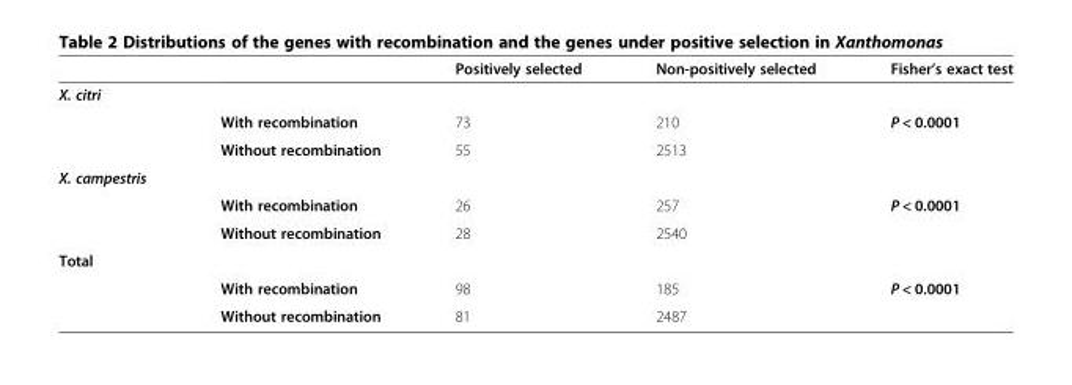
<table><thead><tr><td></td><td></td><td>Positively selected</td><td>Non-positively selected</td><td>Fisher’s exact test</td></tr></thead><tbody><tr><td colspan="5">X. citri</td></tr><tr><td></td><td>With recombination</td><td>73</td><td>210</td><td>P &lt; 0.0001</td></tr><tr><td></td><td>Without recombination</td><td>55</td><td>2513</td><td></td></tr><tr><td colspan="5">X. campestris</td></tr><tr><td></td><td>With recombination</td><td>26</td><td>257</td><td>P &lt; 0.0001</td></tr><tr><td></td><td>Without recombination</td><td>28</td><td>2540</td><td></td></tr><tr><td colspan="5">Total</td></tr><tr><td></td><td>With recombination</td><td>98</td><td>185</td><td>P &lt; 0.0001</td></tr><tr><td></td><td>Without recombination</td><td>81</td><td>2487</td><td></td></tr></tbody></table>